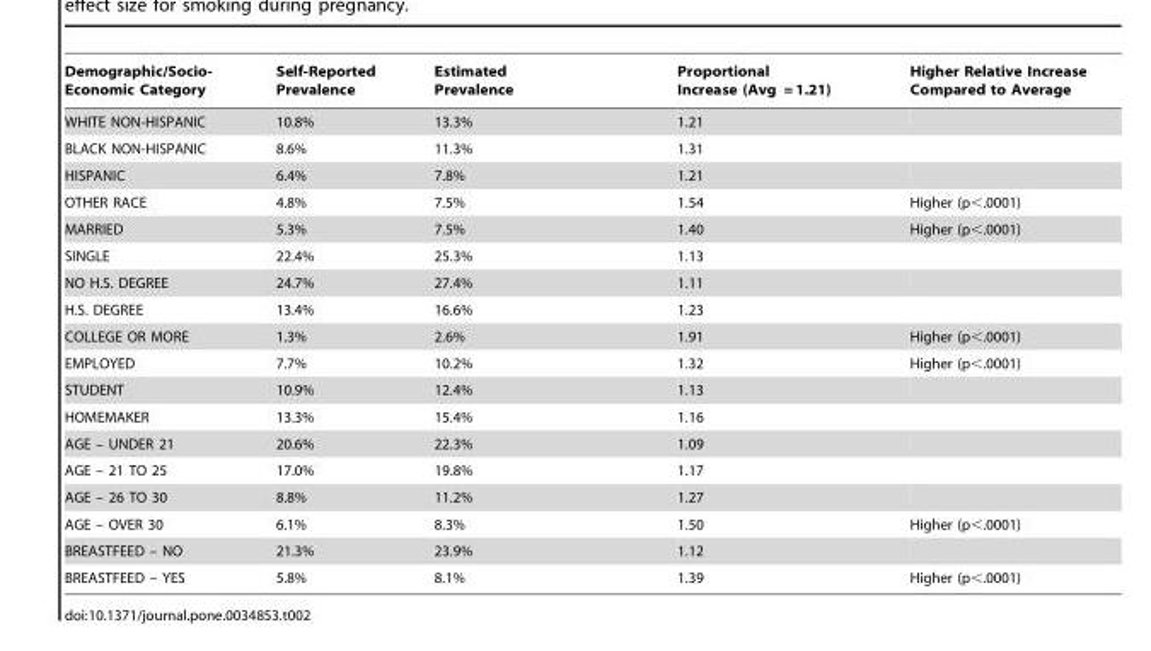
<table><thead><tr><td>Demographic/Socio- Economic Category</td><td>Self-Reported Prevalence</td><td>Estimated Prevalence</td><td>Proportional Increase (Avg = 1.21)</td><td>Higher Relative Increase Compared to Average</td></tr></thead><tbody><tr><td>WHITE NON-HISPANIC</td><td>10.8%</td><td>13.3%</td><td>1.21</td><td></td></tr><tr><td>BLACK NON-HISPANIC</td><td>8.6%</td><td>11.3%</td><td>1.31</td><td></td></tr><tr><td>HISPANIC</td><td>6.4%</td><td>7.8%</td><td>1.21</td><td></td></tr><tr><td>OTHER RACE</td><td>4.8%</td><td>7.5%</td><td>1.54</td><td>Higher (p&lt;.0001)</td></tr><tr><td>MARRIED</td><td>5.3%</td><td>7.5%</td><td>1.40</td><td>Higher (p&lt;.0001)</td></tr><tr><td>SINGLE</td><td>22.4%</td><td>25.3%</td><td>1.13</td><td></td></tr><tr><td>NO H.S. DEGREE</td><td>24.7%</td><td>27.4%</td><td>1.11</td><td></td></tr><tr><td>H.S. DEGREE</td><td>13.4%</td><td>16.6%</td><td>1.23</td><td></td></tr><tr><td>COLLEGE OR MORE</td><td>1.3%</td><td>2.6%</td><td>1.91</td><td>Higher (p&lt;.0001)</td></tr><tr><td>EMPLOYED</td><td>7.7%</td><td>10.2%</td><td>1.32</td><td>Higher (p&lt;.0001)</td></tr><tr><td>STUDENT</td><td>10.9%</td><td>12.4%</td><td>1.13</td><td></td></tr><tr><td>HOMEMAKER</td><td>13.3%</td><td>15.4%</td><td>1.16</td><td></td></tr><tr><td>AGE – UNDER 21</td><td>20.6%</td><td>22.3%</td><td>1.09</td><td></td></tr><tr><td>AGE – 21 TO 25</td><td>17.0%</td><td>19.8%</td><td>1.17</td><td></td></tr><tr><td>AGE – 26 TO 30</td><td>8.8%</td><td>11.2%</td><td>1.27</td><td></td></tr><tr><td>AGE – OVER 30</td><td>6.1%</td><td>8.3%</td><td>1.50</td><td>Higher (p&lt;.0001)</td></tr><tr><td>BREASTFEED – NO</td><td>21.3%</td><td>23.9%</td><td>1.12</td><td></td></tr><tr><td>BREASTFEED – YES</td><td>5.8%</td><td>8.1%</td><td>1.39</td><td>Higher (p&lt;.0001)</td></tr></tbody></table>